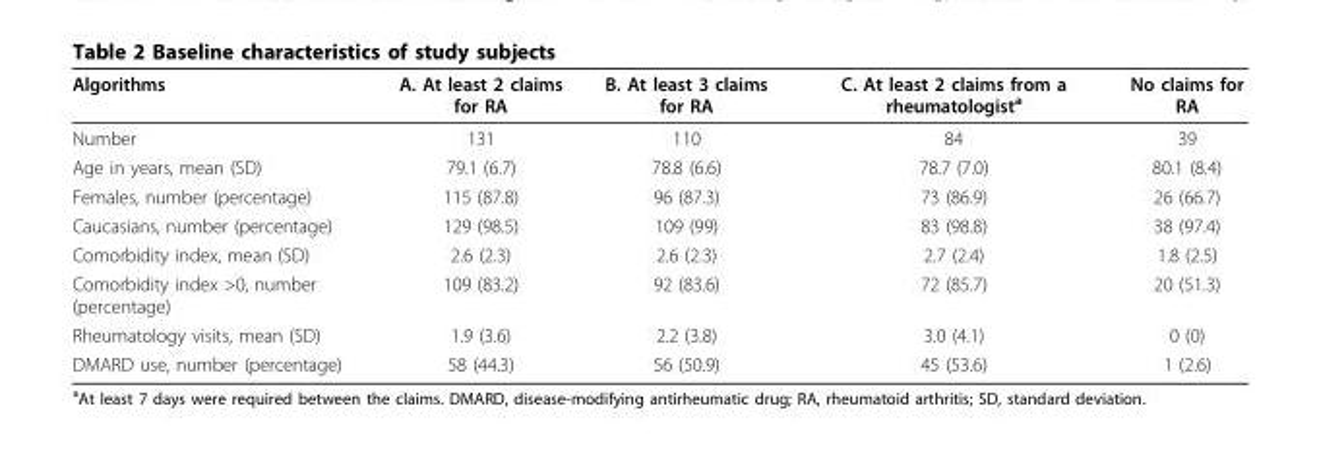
<table><thead><tr><td>Algorithms</td><td>A. At least 2 claims for RA</td><td>B. At least 3 claims for RA</td><td>C. At least 2 claims from a rheumatologist<sup>a</sup></td><td>No claims for RA</td></tr></thead><tbody><tr><td>Number</td><td>131</td><td>110</td><td>84</td><td>39</td></tr><tr><td>Age in years, mean (SD)</td><td>79.1 (6.7)</td><td>78.8 (6.6)</td><td>78.7 (7.0)</td><td>80.1 (8.4)</td></tr><tr><td>Females, number (percentage)</td><td>115 (87.8)</td><td>96 (87.3)</td><td>73 (86.9)</td><td>26 (66.7)</td></tr><tr><td>Caucasians, number (percentage)</td><td>129 (98.5)</td><td>109 (99)</td><td>83 (98.8)</td><td>38 (97.4)</td></tr><tr><td>Comorbidity index, mean (SD)</td><td>2.6 (2.3)</td><td>2.6 (2.3)</td><td>2.7 (2.4)</td><td>1.8 (2.5)</td></tr><tr><td>Comorbidity index &gt;0, number (percentage)</td><td>109 (83.2)</td><td>92 (83.6)</td><td>72 (85.7)</td><td>20 (51.3)</td></tr><tr><td>Rheumatology visits, mean (SD)</td><td>1.9 (3.6)</td><td>2.2 (3.8)</td><td>3.0 (4.1)</td><td>0 (0)</td></tr><tr><td>DMARD use, number (percentage)</td><td>58 (44.3)</td><td>56 (50.9)</td><td>45 (53.6)</td><td>1 (2.6)</td></tr></tbody></table>